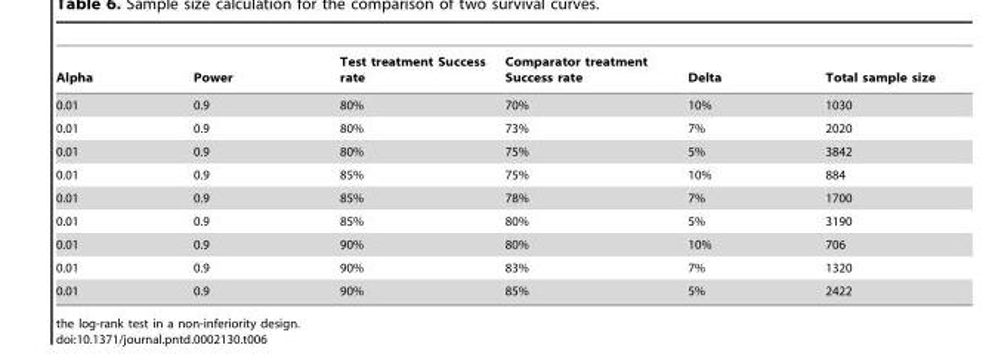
<table><thead><tr><td>Alpha</td><td>Power</td><td>Test treatment Success rate</td><td>Comparator treatment Success rate</td><td>Delta</td><td>Total sample size</td></tr></thead><tbody><tr><td>0.01</td><td>0.9</td><td>80%</td><td>70%</td><td>10%</td><td>1030</td></tr><tr><td>0.01</td><td>0.9</td><td>80%</td><td>73%</td><td>7%</td><td>2020</td></tr><tr><td>0.01</td><td>0.9</td><td>80%</td><td>75%</td><td>5%</td><td>3842</td></tr><tr><td>0.01</td><td>0.9</td><td>85%</td><td>75%</td><td>10%</td><td>884</td></tr><tr><td>0.01</td><td>0.9</td><td>85%</td><td>78%</td><td>7%</td><td>1700</td></tr><tr><td>0.01</td><td>0.9</td><td>85%</td><td>80%</td><td>5%</td><td>3190</td></tr><tr><td>0.01</td><td>0.9</td><td>90%</td><td>80%</td><td>10%</td><td>706</td></tr><tr><td>0.01</td><td>0.9</td><td>90%</td><td>83%</td><td>7%</td><td>1320</td></tr><tr><td>0.01</td><td>0.9</td><td>90%</td><td>85%</td><td>5%</td><td>2422</td></tr></tbody></table>